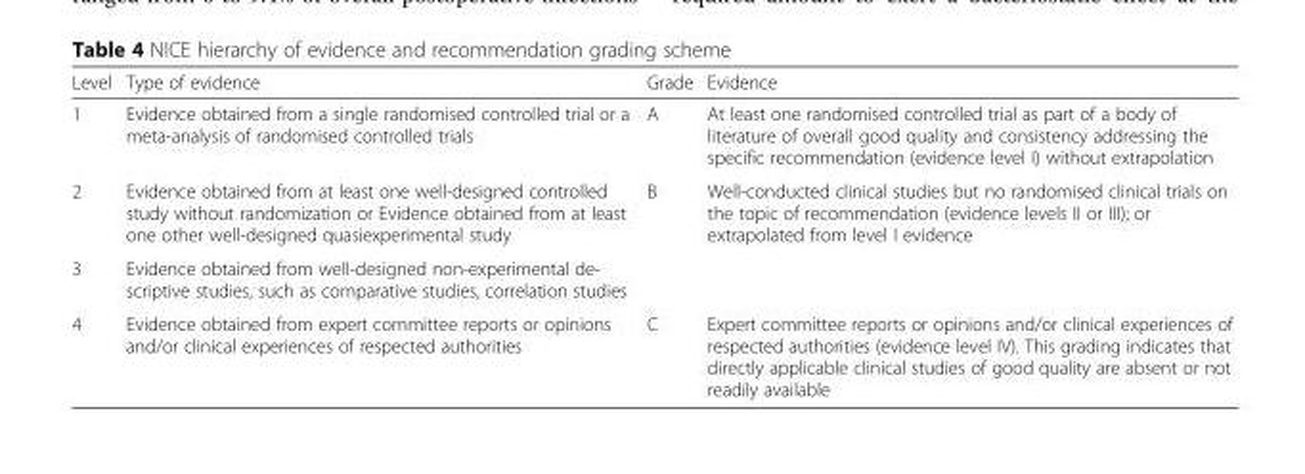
<table><thead><tr><td>Level</td><td>Type of evidence</td><td>Grade</td><td>Evidence</td></tr></thead><tbody><tr><td>1</td><td>Evidence obtained from a single randomised controlled trial or a meta-analysis of randomised controlled trials</td><td>A</td><td>At least one randomised controlled trial as part of a body of literature of overall good quality and consistency addressing the specific recommendation (evidence level I) without extrapolation</td></tr><tr><td>2</td><td>Evidence obtained from at least one well-designed controlled study without randomization or Evidence obtained from at least one other well-designed quasiexperimental study</td><td>B</td><td>Well-conducted clinical studies but no randomised clinical trials on the topic of recommendation (evidence levels II or III); or extrapolated from level I evidence</td></tr><tr><td>3</td><td>Evidence obtained from well-designed non-experimental de- scriptive studies, such as comparative studies, correlation studies</td><td></td><td></td></tr><tr><td>4</td><td>Evidence obtained from expert committee reports or opinions and/or clinical experiences of respected authorities</td><td>C</td><td>Expert committee reports or opinions and/or clinical experiences of respected authorities (evidence level IV). This grading indicates that directly applicable clinical studies of good quality are absent or not readily available</td></tr></tbody></table>